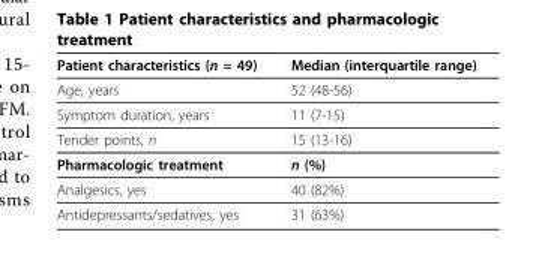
<table><thead><tr><td>Patient characteristics (n = 49)</td><td>Median (interquartile range)</td></tr></thead><tbody><tr><td>Age, years</td><td>52 (48-56)</td></tr><tr><td>Symptom duration, years</td><td>11 (7-15)</td></tr><tr><td>Tender points, n</td><td>15 (13-16)</td></tr><tr><td>Pharmacologic treatment</td><td>n (%)</td></tr><tr><td>Analgesics, yes</td><td>40 (82%)</td></tr><tr><td>Antidepressants/sedatives, yes</td><td>31 (63%)</td></tr></tbody></table>